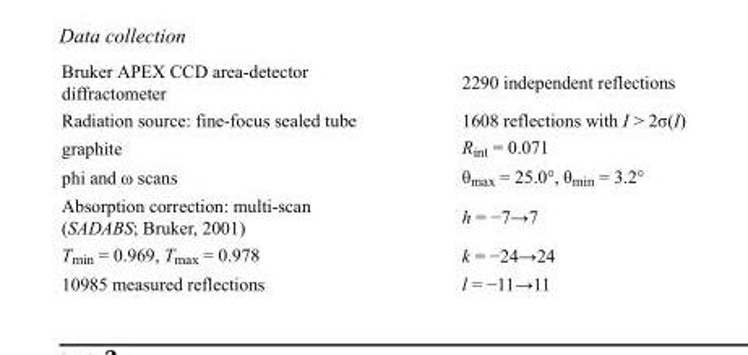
<table><tbody><tr><td>Bruker APEX CCD area-detector diffractometer</td><td>2290 independent reflections</td></tr><tr><td>Radiation source: fine-focus sealed tube</td><td>1608 reflections with I &gt; 2σ(I)</td></tr><tr><td>graphite</td><td>R<sub>int</sub> = 0.071</td></tr><tr><td>phi and ω scans</td><td>θ<sub>max</sub> = 25.0°, θ<sub>min</sub> = 3.2°</td></tr><tr><td>Absorption correction: multi-scan (SADABS; Bruker, 2001)</td><td>h = −7→7</td></tr><tr><td>T<sub>min</sub> = 0.969, T<sub>max</sub> = 0.978</td><td>k = −24→24</td></tr><tr><td>10985 measured reflections</td><td>l = −11→11</td></tr></tbody></table>